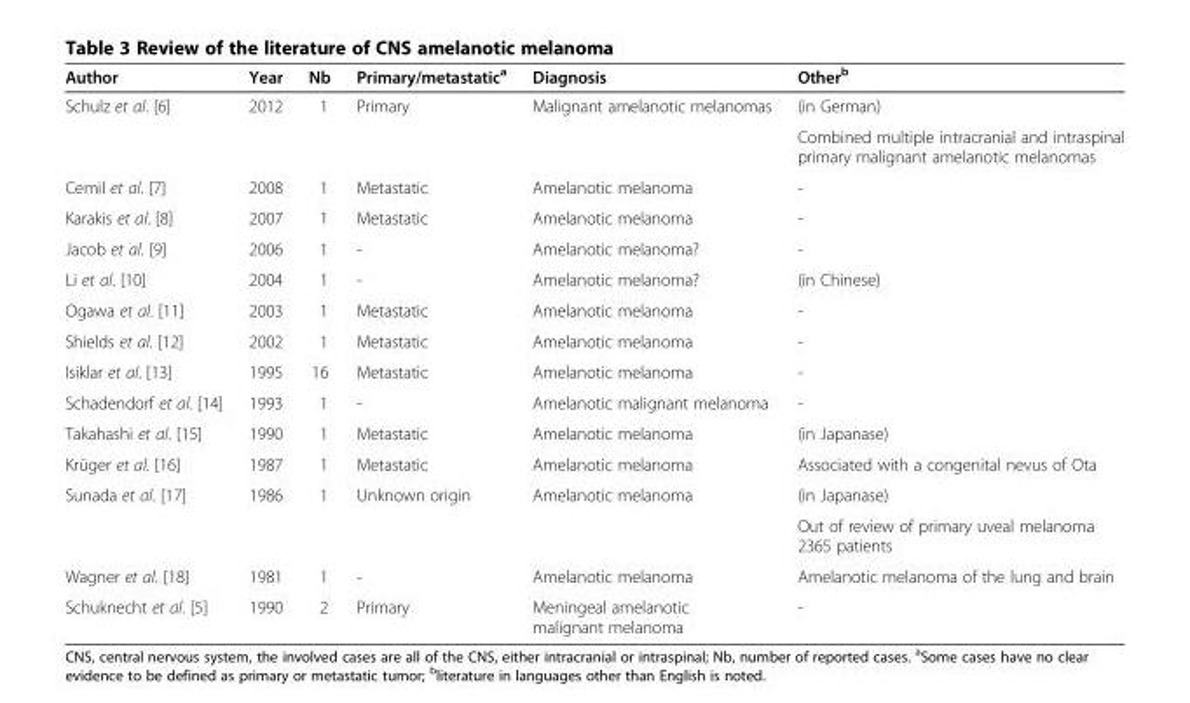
<table><thead><tr><td>Author</td><td>Year</td><td>Nb</td><td>Primary/metastatic<sup>a</sup></td><td>Diagnosis</td><td>Other<sup>b</sup></td></tr></thead><tbody><tr><td rowspan="2">Schulz et al. [6]</td><td rowspan="2">2012</td><td rowspan="2">1</td><td rowspan="2">Primary</td><td rowspan="2">Malignant amelanotic melanomas</td><td>(in German)</td></tr><tr><td>Combined multiple intracranial and intraspinal primary malignant amelanotic melanomas</td></tr><tr><td>Cemil et al. [7]</td><td>2008</td><td>1</td><td>Metastatic</td><td>Amelanotic melanoma</td><td>-</td></tr><tr><td>Karakis et al. [8]</td><td>2007</td><td>1</td><td>Metastatic</td><td>Amelanotic melanoma</td><td>-</td></tr><tr><td>Jacob et al. [9]</td><td>2006</td><td>1</td><td>-</td><td>Amelanotic melanoma?</td><td>-</td></tr><tr><td>Li et al. [10]</td><td>2004</td><td>1</td><td>-</td><td>Amelanotic melanoma?</td><td>(in Chinese)</td></tr><tr><td>Ogawa et al. [11]</td><td>2003</td><td>1</td><td>Metastatic</td><td>Amelanotic melanoma</td><td>-</td></tr><tr><td>Shields et al. [12]</td><td>2002</td><td>1</td><td>Metastatic</td><td>Amelanotic melanoma</td><td>-</td></tr><tr><td>Isiklar et al. [13]</td><td>1995</td><td>16</td><td>Metastatic</td><td>Amelanotic melanoma</td><td>-</td></tr><tr><td>Schadendorf et al. [14]</td><td>1993</td><td>1</td><td>-</td><td>Amelanotic malignant melanoma</td><td>-</td></tr><tr><td>Takahashi et al. [15]</td><td>1990</td><td>1</td><td>Metastatic</td><td>Amelanotic melanoma</td><td>(in Japanase)</td></tr><tr><td>Krüger et al. [16]</td><td>1987</td><td>1</td><td>Metastatic</td><td>Amelanotic melanoma</td><td>Associated with a congenital nevus of Ota</td></tr><tr><td rowspan="2">Sunada et al. [17]</td><td rowspan="2">1986</td><td rowspan="2">1</td><td rowspan="2">Unknown origin</td><td rowspan="2">Amelanotic melanoma</td><td>(in Japanase)</td></tr><tr><td>Out of review of primary uveal melanoma 2365 patients</td></tr><tr><td>Wagner et al. [18]</td><td>1981</td><td>1</td><td>-</td><td>Amelanotic melanoma</td><td>Amelanotic melanoma of the lung and brain</td></tr><tr><td>Schuknecht et al. [5]</td><td>1990</td><td>2</td><td>Primary</td><td>Meningeal amelanotic malignant melanoma</td><td>-</td></tr></tbody></table>